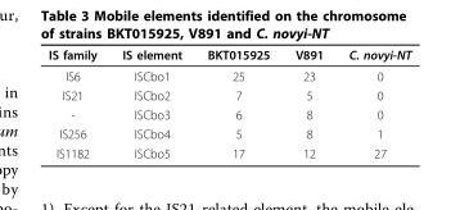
<table><thead><tr><td>IS family</td><td>IS element</td><td>BKT015925</td><td>V891</td><td>C. novyi-NT</td></tr></thead><tbody><tr><td>IS6</td><td>ISCbo1</td><td>25</td><td>23</td><td>0</td></tr><tr><td>IS21</td><td>ISCbo2</td><td>7</td><td>5</td><td>0</td></tr><tr><td>-</td><td>ISCbo3</td><td>6</td><td>8</td><td>0</td></tr><tr><td>IS256</td><td>ISCbo4</td><td>5</td><td>8</td><td>1</td></tr><tr><td>IS1182</td><td>ISCbo5</td><td>17</td><td>12</td><td>27</td></tr></tbody></table>